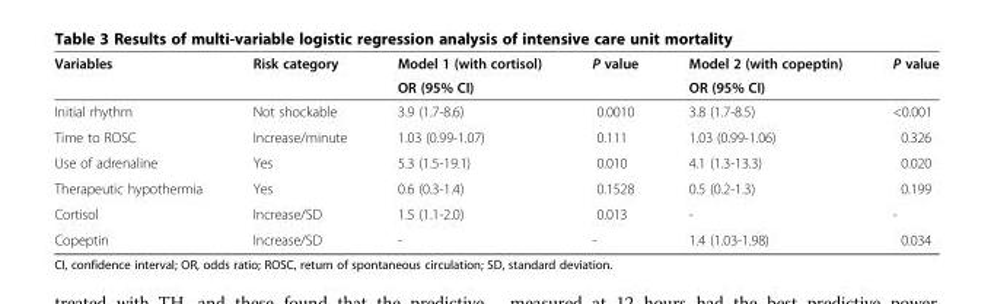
<table><thead><tr><td rowspan="2">Variables</td><td rowspan="2">Risk category</td><td rowspan="2">Model 1 (with cortisol) OR (95% CI)</td><td rowspan="2">P value</td><td rowspan="2">Model 2 (with copeptin) OR (95% CI)</td><td rowspan="2">P value</td></tr><tr></tr></thead><tbody><tr><td>Initial rhythm</td><td>Not shockable</td><td>3.9 (1.7-8.6)</td><td>0.0010</td><td>3.8 (1.7-8.5)</td><td>&lt;0.001</td></tr><tr><td>Time to ROSC</td><td>Increase/minute</td><td>1.03 (0.99-1.07)</td><td>0.111</td><td>1.03 (0.99-1.06)</td><td>0.326</td></tr><tr><td>Use of adrenaline</td><td>Yes</td><td>5.3 (1.5-19.1)</td><td>0.010</td><td>4.1 (1.3-13.3)</td><td>0.020</td></tr><tr><td>Therapeutic hypothermia</td><td>Yes</td><td>0.6 (0.3-1.4)</td><td>0.1528</td><td>0.5 (0.2-1.3)</td><td>0.199</td></tr><tr><td>Cortisol</td><td>Increase/SD</td><td>1.5 (1.1-2.0)</td><td>0.013</td><td>-</td><td>-</td></tr><tr><td>Copeptin</td><td>Increase/SD</td><td>-</td><td>-</td><td>1.4 (1.03-1.98)</td><td>0.034</td></tr></tbody></table>